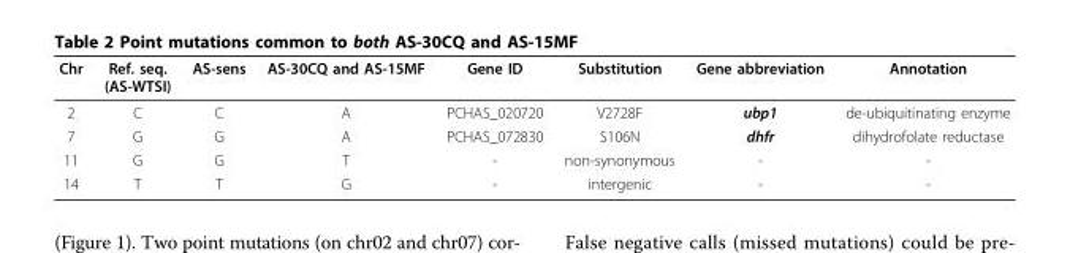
<table><thead><tr><td>Chr</td><td>Ref. seq. (AS-WTSI)</td><td>AS-sens</td><td>AS-30CQ and AS-15MF</td><td>Gene ID</td><td>Substitution</td><td>Gene abbreviation</td><td>Annotation</td></tr></thead><tbody><tr><td>2</td><td>C</td><td>C</td><td>A</td><td>PCHAS_020720</td><td>V2728F</td><td>ubp1</td><td>de-ubiquitinating enzyme</td></tr><tr><td>7</td><td>G</td><td>G</td><td>A</td><td>PCHAS_072830</td><td>S106N</td><td>dhfr</td><td>dihydrofolate reductase</td></tr><tr><td>11</td><td>G</td><td>G</td><td>T</td><td>-</td><td>non-synonymous</td><td>-</td><td>-</td></tr><tr><td>14</td><td>T</td><td>T</td><td>G</td><td>-</td><td>intergenic</td><td>-</td><td>-</td></tr></tbody></table>